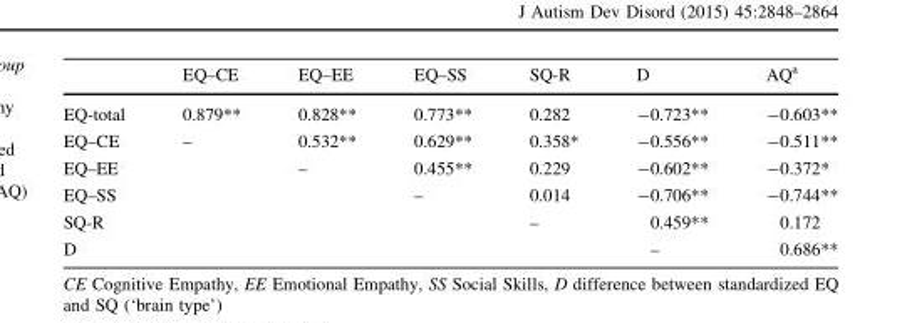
<table><thead><tr><td></td><td>EQ–CE</td><td>EQ–EE</td><td>EQ–SS</td><td>SQ-R</td><td>D</td><td>AQ<sup>a</sup></td></tr></thead><tbody><tr><td>EQ-total</td><td>0.879**</td><td>0.828**</td><td>0.773**</td><td>0.282</td><td>-0.723**</td><td>-0.603**</td></tr><tr><td>EQ–CE</td><td>–</td><td>0.532**</td><td>0.629**</td><td>0.358*</td><td>-0.556**</td><td>-0.511**</td></tr><tr><td>EQ–EE</td><td></td><td>–</td><td>0.455**</td><td>0.229</td><td>-0.602**</td><td>-0.372*</td></tr><tr><td>EQ–SS</td><td></td><td></td><td>–</td><td>0.014</td><td>-0.706**</td><td>-0.744**</td></tr><tr><td>SQ-R</td><td></td><td></td><td></td><td>–</td><td>0.459**</td><td>0.172</td></tr><tr><td>D</td><td></td><td></td><td></td><td></td><td>–</td><td>0.686**</td></tr></tbody></table>